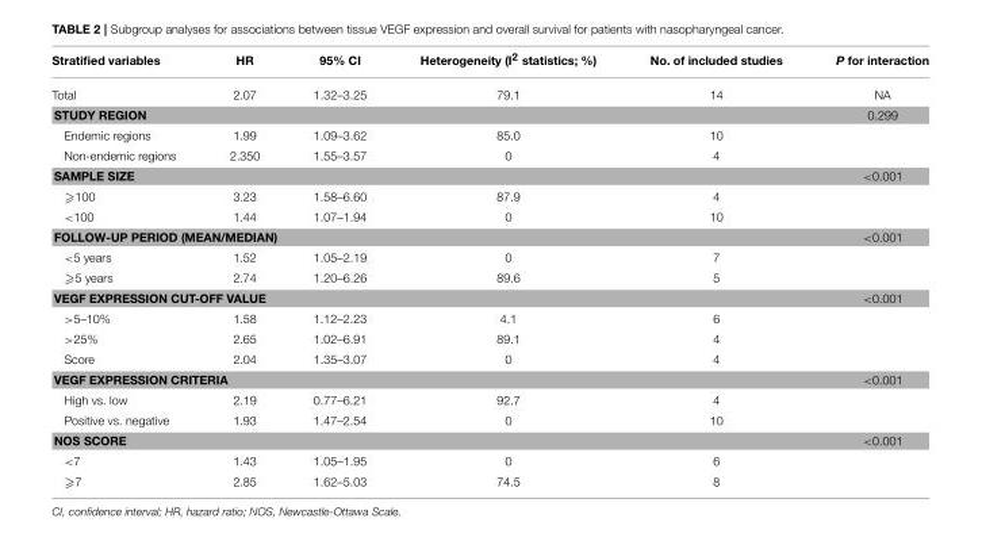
<table><thead><tr><td>Stratified variables</td><td>HR</td><td>95% CI</td><td>Heterogeneity (I<sup>2</sup> statistics; %)</td><td>No. of included studies</td><td>P for interaction</td></tr></thead><tbody><tr><td>Total</td><td>2.07</td><td>1.32–3.25</td><td>79.1</td><td>14</td><td>NA</td></tr><tr><td colspan="5">STUDY REGION</td><td>0.299</td></tr><tr><td>Endemic regions</td><td>1.99</td><td>1.09–3.62</td><td>85.0</td><td>10</td><td></td></tr><tr><td>Non-endemic regions</td><td>2.350</td><td>1.55–3.57</td><td>0</td><td>4</td><td></td></tr><tr><td colspan="5">SAMPLE SIZE</td><td>&lt;0.001</td></tr><tr><td>⩾100</td><td>3.23</td><td>1.58–6.60</td><td>87.9</td><td>4</td><td></td></tr><tr><td>&lt;100</td><td>1.44</td><td>1.07–1.94</td><td>0</td><td>10</td><td></td></tr><tr><td colspan="5">FOLLOW-UP PERIOD (MEAN/MEDIAN)</td><td>&lt;0.001</td></tr><tr><td>&lt;5 years</td><td>1.52</td><td>1.05–2.19</td><td>0</td><td>7</td><td></td></tr><tr><td>⩾5 years</td><td>2.74</td><td>1.20–6.26</td><td>89.6</td><td>5</td><td></td></tr><tr><td colspan="5">VEGF EXPRESSION CUT-OFF VALUE</td><td>&lt;0.001</td></tr><tr><td>&gt;5–10%</td><td>1.58</td><td>1.12–2.23</td><td>4.1</td><td>6</td><td></td></tr><tr><td>&gt;25%</td><td>2.65</td><td>1.02–6.91</td><td>89.1</td><td>4</td><td></td></tr><tr><td>Score</td><td>2.04</td><td>1.35–3.07</td><td>0</td><td>4</td><td></td></tr><tr><td colspan="5">VEGF EXPRESSION CRITERIA</td><td>&lt;0.001</td></tr><tr><td>High vs. low</td><td>2.19</td><td>0.77–6.21</td><td>92.7</td><td>4</td><td></td></tr><tr><td>Positive vs. negative</td><td>1.93</td><td>1.47–2.54</td><td>0</td><td>10</td><td></td></tr><tr><td colspan="5">NOS SCORE</td><td>&lt;0.001</td></tr><tr><td>&lt;7</td><td>1.43</td><td>1.05–1.95</td><td>0</td><td>6</td><td></td></tr><tr><td>⩾7</td><td>2.85</td><td>1.62–5.03</td><td>74.5</td><td>8</td><td></td></tr></tbody></table>